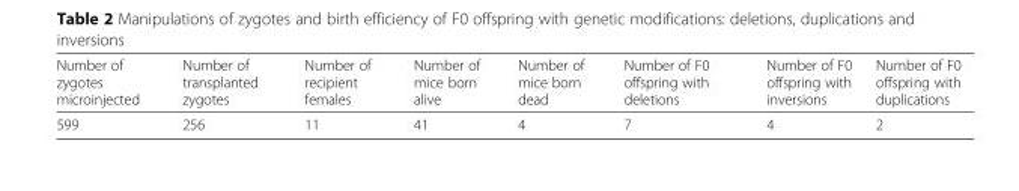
<table><thead><tr><td>Number of zygotes microinjected</td><td>Number of transplanted zygotes</td><td>Number of recipient females</td><td>Number of mice born alive</td><td>Number of mice born dead</td><td>Number of F0 offspring with deletions</td><td>Number of F0 offspring with inversions</td><td>Number of F0 offspring with duplications</td></tr></thead><tbody><tr><td>599</td><td>256</td><td>11</td><td>41</td><td>4</td><td>7</td><td>4</td><td>2</td></tr></tbody></table>